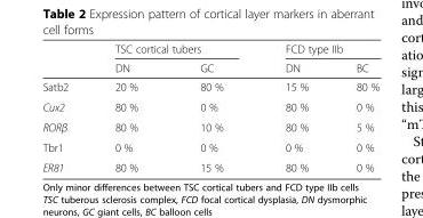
<table><thead><tr><td rowspan="2"></td><td colspan="2">TSC cortical tubers</td><td colspan="2">FCD type IIb</td></tr><tr><td>DN</td><td>GC</td><td>DN</td><td>BC</td></tr></thead><tbody><tr><td>Satb2</td><td>20 %</td><td>80 %</td><td>15 %</td><td>80 %</td></tr><tr><td>Cux2</td><td>80 %</td><td>0 %</td><td>80 %</td><td>0 %</td></tr><tr><td>RORβ</td><td>80 %</td><td>10 %</td><td>80 %</td><td>5 %</td></tr><tr><td>Tbr1</td><td>0 %</td><td>0 %</td><td>0 %</td><td>0 %</td></tr><tr><td>ER81</td><td>80 %</td><td>15 %</td><td>80 %</td><td>0 %</td></tr></tbody></table>